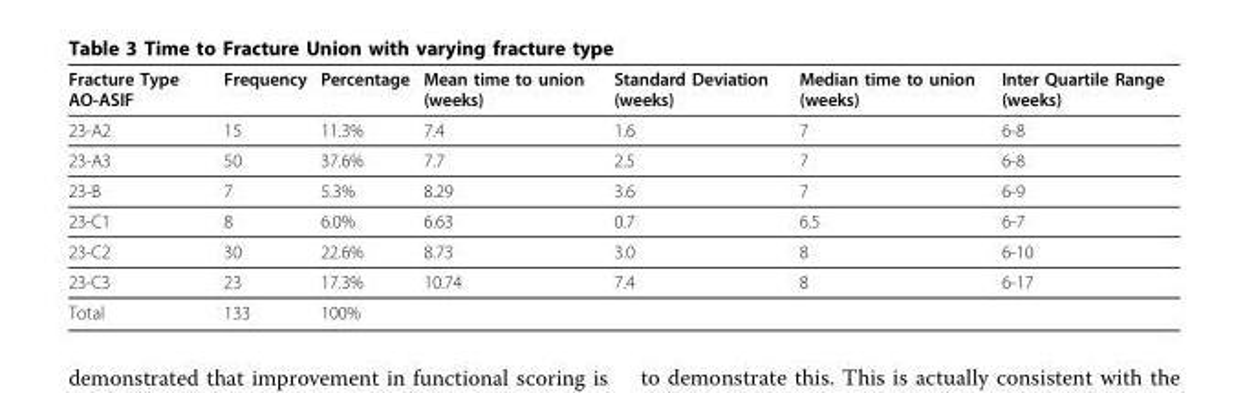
<table><thead><tr><td>Fracture Type AO-ASIF</td><td>Frequency</td><td>Percentage</td><td>Mean time to union (weeks)</td><td>Standard Deviation (weeks)</td><td>Median time to union (weeks)</td><td>Inter Quartile Range (weeks)</td></tr></thead><tbody><tr><td>23-A2</td><td>15</td><td>11.3%</td><td>7.4</td><td>1.6</td><td>7</td><td>6-8</td></tr><tr><td>23-A3</td><td>50</td><td>37.6%</td><td>7.7</td><td>2.5</td><td>7</td><td>6-8</td></tr><tr><td>23-B</td><td>7</td><td>5.3%</td><td>8.29</td><td>3.6</td><td>7</td><td>6-9</td></tr><tr><td>23-C1</td><td>8</td><td>6.0%</td><td>6.63</td><td>0.7</td><td>6.5</td><td>6-7</td></tr><tr><td>23-C2</td><td>30</td><td>22.6%</td><td>8.73</td><td>3.0</td><td>8</td><td>6-10</td></tr><tr><td>23-C3</td><td>23</td><td>17.3%</td><td>10.74</td><td>7.4</td><td>8</td><td>6-17</td></tr><tr><td>Total</td><td>133</td><td>100%</td><td></td><td></td><td></td><td></td></tr></tbody></table>